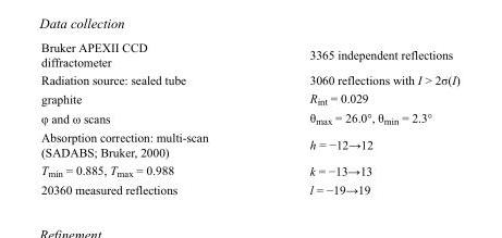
<table><tbody><tr><td>Bruker APEXII CCD diffractometer</td><td>3365 independent reflections</td></tr><tr><td>Radiation source: sealed tube</td><td>3060 reflections with I &gt; 2σ(I)</td></tr><tr><td>graphite</td><td>R<sub>int</sub> = 0.029</td></tr><tr><td>φ and ω scans</td><td>θ<sub>max</sub> = 26.0°, θ<sub>min</sub> = 2.3°</td></tr><tr><td>Absorption correction: multi-scan (SADABS; Bruker, 2000)</td><td>h = −12→12</td></tr><tr><td>T<sub>min</sub> = 0.885, T<sub>max</sub> = 0.988</td><td>k = −13→13</td></tr><tr><td>20360 measured reflections</td><td>l = −19→19</td></tr></tbody></table>